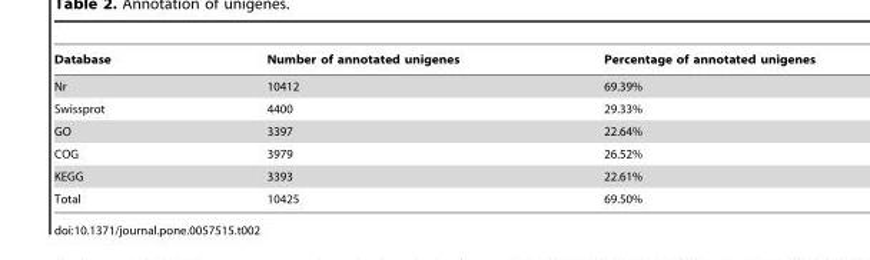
<table><thead><tr><td>Database</td><td>Number of annotated unigenes</td><td>Percentage of annotated unigenes</td></tr></thead><tbody><tr><td>Nr</td><td>10412</td><td>69.39%</td></tr><tr><td>Swissprot</td><td>4400</td><td>29.33%</td></tr><tr><td>GO</td><td>3397</td><td>22.64%</td></tr><tr><td>COG</td><td>3979</td><td>26.52%</td></tr><tr><td>KEGG</td><td>3393</td><td>22.61%</td></tr><tr><td>Total</td><td>10425</td><td>69.50%</td></tr></tbody></table>